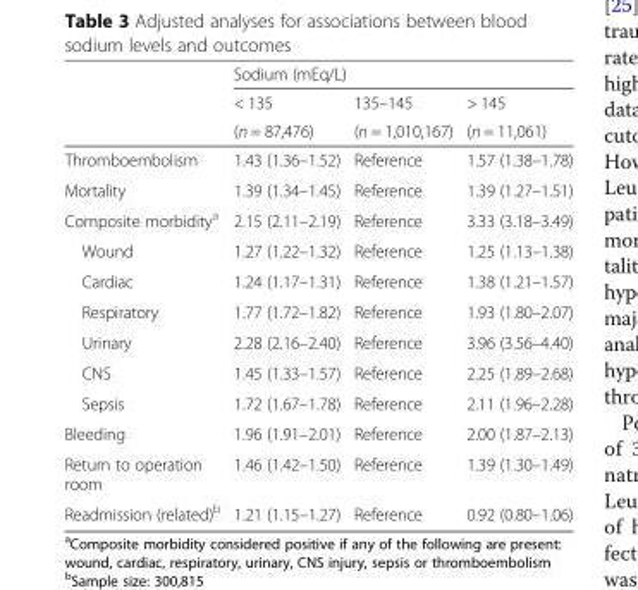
<table><thead><tr><td rowspan="3"></td><td colspan="3">Sodium (mEq/L)</td></tr><tr><td rowspan="2">&lt; 135 (n = 87,476)</td><td rowspan="2">135–145 (n = 1,010,167)</td><td rowspan="2">&gt; 145 (n = 11,061)</td></tr><tr></tr></thead><tbody><tr><td>Thromboembolism</td><td>1.43 (1.36–1.52)</td><td>Reference</td><td>1.57 (1.38–1.78)</td></tr><tr><td>Mortality</td><td>1.39 (1.34–1.45)</td><td>Reference</td><td>1.39 (1.27–1.51)</td></tr><tr><td>Composite morbidity<sup>a</sup></td><td>2.15 (2.11–2.19)</td><td>Reference</td><td>3.33 (3.18–3.49)</td></tr><tr><td>Wound</td><td>1.27 (1.22–1.32)</td><td>Reference</td><td>1.25 (1.13–1.38)</td></tr><tr><td>Cardiac</td><td>1.24 (1.17–1.31)</td><td>Reference</td><td>1.38 (1.21–1.57)</td></tr><tr><td>Respiratory</td><td>1.77 (1.72–1.82)</td><td>Reference</td><td>1.93 (1.80–2.07)</td></tr><tr><td>Urinary</td><td>2.28 (2.16–2.40)</td><td>Reference</td><td>3.96 (3.56–4.40)</td></tr><tr><td>CNS</td><td>1.45 (1.33–1.57)</td><td>Reference</td><td>2.25 (1.89–2.68)</td></tr><tr><td>Sepsis</td><td>1.72 (1.67–1.78)</td><td>Reference</td><td>2.11 (1.96–2.28)</td></tr><tr><td>Bleeding</td><td>1.96 (1.91–2.01)</td><td>Reference</td><td>2.00 (1.87–2.13)</td></tr><tr><td>Return to operation room</td><td>1.46 (1.42–1.50)</td><td>Reference</td><td>1.39 (1.30–1.49)</td></tr><tr><td>Readmission (related)<sup>b</sup></td><td>1.21 (1.15–1.27)</td><td>Reference</td><td>0.92 (0.80–1.06)</td></tr></tbody></table>